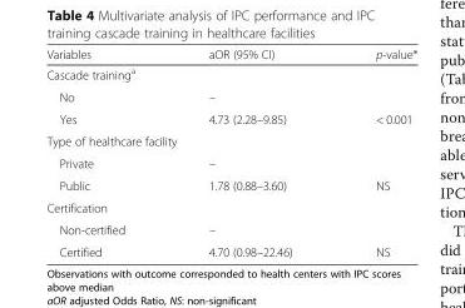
<table><thead><tr><td>Variables</td><td>aOR (95% CI)</td><td>p-value*</td></tr></thead><tbody><tr><td colspan="3">Cascade training<sup>a</sup></td></tr><tr><td>No</td><td>–</td><td></td></tr><tr><td>Yes</td><td>4.73 (2.28–9.85)</td><td>&lt; 0.001</td></tr><tr><td colspan="3">Type of healthcare facility</td></tr><tr><td>Private</td><td>–</td><td></td></tr><tr><td>Public</td><td>1.78 (0.88–3.60)</td><td>NS</td></tr><tr><td colspan="3">Certification</td></tr><tr><td>Non-certified</td><td>–</td><td></td></tr><tr><td>Certified</td><td>4.70 (0.98–22.46)</td><td>NS</td></tr></tbody></table>